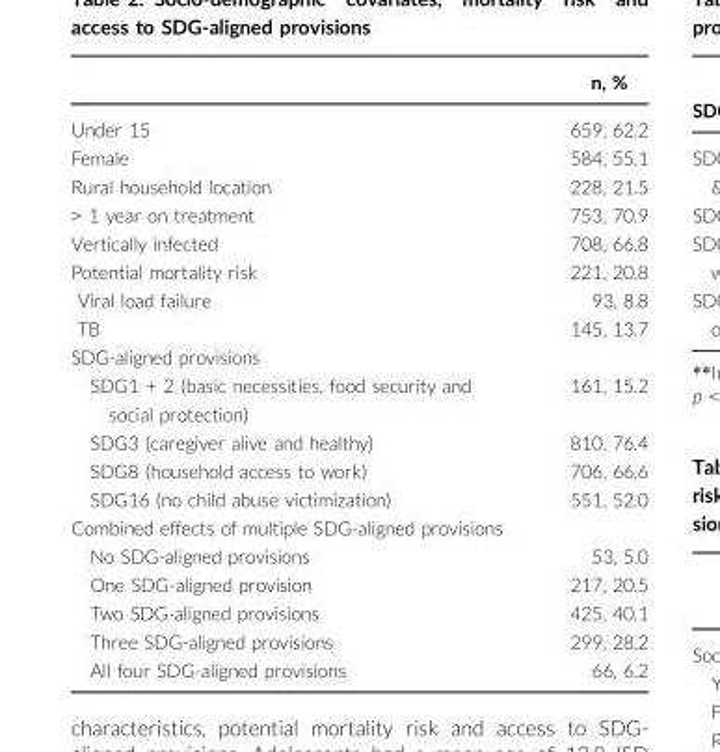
<table><thead><tr><td></td><td>n, %</td></tr></thead><tbody><tr><td>Under 15</td><td>659, 62.2</td></tr><tr><td>Female</td><td>584, 55.1</td></tr><tr><td>Rural household location</td><td>228, 21.5</td></tr><tr><td>&gt; 1 year on treatment</td><td>753, 70.9</td></tr><tr><td>Vertically infected</td><td>708, 66.8</td></tr><tr><td>Potential mortality risk</td><td>221, 20.8</td></tr><tr><td>Viral load failure</td><td>93, 8.8</td></tr><tr><td>TB</td><td>145, 13.7</td></tr><tr><td colspan="2">SDG-aligned provisions</td></tr><tr><td>SDG1 + 2 (basic necessities, food security and social protection)</td><td>161, 15.2</td></tr><tr><td>SDG3 (caregiver alive and healthy)</td><td>810, 76.4</td></tr><tr><td>SDG8 (household access to work)</td><td>706, 66.6</td></tr><tr><td>SDG16 (no child abuse victimization)</td><td>551, 52.0</td></tr><tr><td colspan="2">Combined effects of multiple SDG-aligned provisions</td></tr><tr><td>No SDG-aligned provisions</td><td>53, 5.0</td></tr><tr><td>One SDG-aligned provision</td><td>217, 20.5</td></tr><tr><td>Two SDG-aligned provisions</td><td>425, 40.1</td></tr><tr><td>Three SDG-aligned provisions</td><td>299, 28.2</td></tr><tr><td>All four SDG-aligned provisions</td><td>66, 6.2</td></tr></tbody></table>